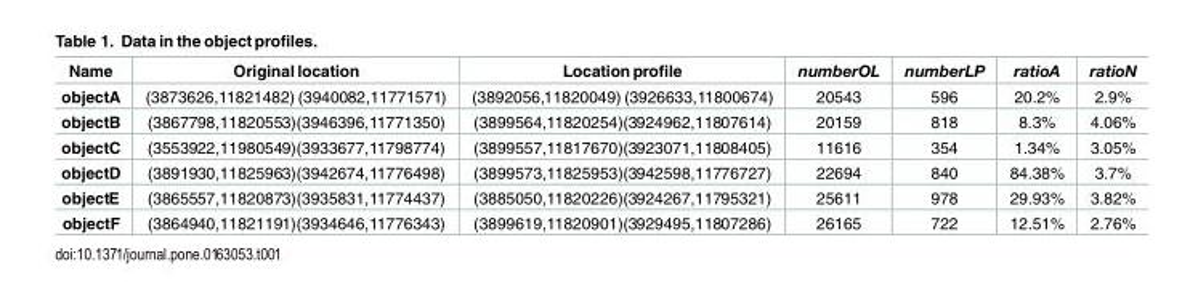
<table><thead><tr><td>Name</td><td>Original location</td><td>Location profile</td><td>numberOL</td><td>numberLP</td><td>ratioA</td><td>ratioN</td></tr></thead><tbody><tr><td>objectA</td><td>(3873626,11821482) (3940082,11771571)</td><td>(3892056,11820049) (3926633,11800674)</td><td>20543</td><td>596</td><td>20.2%</td><td>2.9%</td></tr><tr><td>objectB</td><td>(3867798,11820553)(3946396,11771350)</td><td>(3899564,11820254)(3924962,11807614)</td><td>20159</td><td>818</td><td>8.3%</td><td>4.06%</td></tr><tr><td>objectC</td><td>(3553922,11980549)(3933677,11798774)</td><td>(3899557,11817670)(3923071,11808405)</td><td>11616</td><td>354</td><td>1.34%</td><td>3.05%</td></tr><tr><td>objectD</td><td>(3891930,11825963)(3942674,11776498)</td><td>(3899573,11825953)(3942598,11776727)</td><td>22694</td><td>840</td><td>84.38%</td><td>3.7%</td></tr><tr><td>objectE</td><td>(3865557,11820873)(3935831,11774437)</td><td>(3885050,11820226)(3924267,11795321)</td><td>25611</td><td>978</td><td>29.93%</td><td>3.82%</td></tr><tr><td>objectF</td><td>(3864940,11821191)(3934646,11776343)</td><td>(3899619,11820901)(3929495,11807286)</td><td>26165</td><td>722</td><td>12.51%</td><td>2.76%</td></tr></tbody></table>